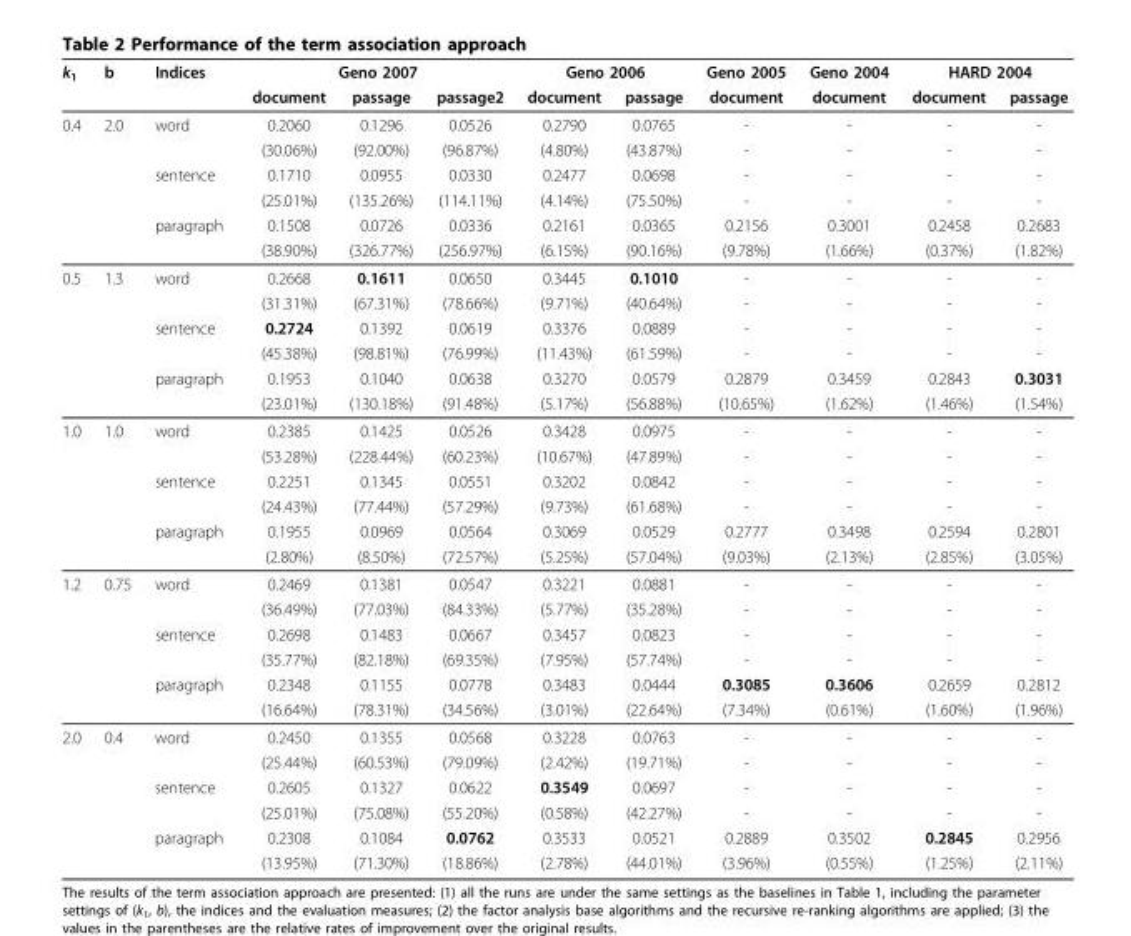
<table><thead><tr><td rowspan="2">k<sub>1</sub></td><td rowspan="2">b</td><td rowspan="2">Indices</td><td colspan="3">Geno 2007</td><td colspan="2">Geno 2006</td><td rowspan="2">Geno 2005 document</td><td rowspan="2">Geno 2004 document</td><td colspan="2">HARD 2004</td></tr><tr><td>document</td><td>passage</td><td>passage2</td><td>document</td><td>passage</td><td>document</td><td>passage</td></tr></thead><tbody><tr><td rowspan="6">0.4</td><td>2.0</td><td>word</td><td>0.2060</td><td>0.1296</td><td>0.0526</td><td>0.2790</td><td>0.0765</td><td>-</td><td>-</td><td>-</td><td>-</td></tr><tr><td></td><td></td><td>(30.06%)</td><td>(92.00%)</td><td>(96.87%)</td><td>(4.80%)</td><td>(43.87%)</td><td>-</td><td>-</td><td>-</td><td>-</td></tr><tr><td></td><td>sentence</td><td>0.1710</td><td>0.0955</td><td>0.0330</td><td>0.2477</td><td>0.0698</td><td>-</td><td>-</td><td>-</td><td>-</td></tr><tr><td></td><td></td><td>(25.01%)</td><td>(135.26%)</td><td>(114.11%)</td><td>(4.14%)</td><td>(75.50%)</td><td>-</td><td>-</td><td>-</td><td>-</td></tr><tr><td></td><td>paragraph</td><td>0.1508</td><td>0.0726</td><td>0.0336</td><td>0.2161</td><td>0.0365</td><td>0.2156</td><td>0.3001</td><td>0.2458</td><td>0.2683</td></tr><tr><td></td><td></td><td>(38.90%)</td><td>(326.77%)</td><td>(256.97%)</td><td>(6.15%)</td><td>(90.16%)</td><td>(9.78%)</td><td>(1.66%)</td><td>(0.37%)</td><td>(1.82%)</td></tr><tr><td rowspan="6">0.5</td><td>1.3</td><td>word</td><td>0.2668</td><td>0.1611</td><td>0.0650</td><td>0.3445</td><td>0.1010</td><td>-</td><td>-</td><td>-</td><td>-</td></tr><tr><td></td><td></td><td>(31.31%)</td><td>(67.31%)</td><td>(78.66%)</td><td>(9.71%)</td><td>(40.64%)</td><td>-</td><td>-</td><td>-</td><td>-</td></tr><tr><td></td><td>sentence</td><td>0.2724</td><td>0.1392</td><td>0.0619</td><td>0.3376</td><td>0.0889</td><td>-</td><td>-</td><td>-</td><td>-</td></tr><tr><td></td><td></td><td>(45.38%)</td><td>(98.81%)</td><td>(76.99%)</td><td>(11.43%)</td><td>(61.59%)</td><td>-</td><td>-</td><td>-</td><td>-</td></tr><tr><td></td><td>paragraph</td><td>0.1953</td><td>0.1040</td><td>0.0638</td><td>0.3270</td><td>0.0579</td><td>0.2879</td><td>0.3459</td><td>0.2843</td><td>0.3031</td></tr><tr><td></td><td></td><td>(23.01%)</td><td>(130.18%)</td><td>(91.48%)</td><td>(5.17%)</td><td>(56.88%)</td><td>(10.65%)</td><td>(1.62%)</td><td>(1.46%)</td><td>(1.54%)</td></tr><tr><td rowspan="6">1.0</td><td>1.0</td><td>word</td><td>0.2385</td><td>0.1425</td><td>0.0526</td><td>0.3428</td><td>0.0975</td><td>-</td><td>-</td><td>-</td><td>-</td></tr><tr><td></td><td></td><td>(53.28%)</td><td>(228.44%)</td><td>(60.23%)</td><td>(10.67%)</td><td>(47.89%)</td><td>-</td><td>-</td><td>-</td><td>-</td></tr><tr><td></td><td>sentence</td><td>0.2251</td><td>0.1345</td><td>0.0551</td><td>0.3202</td><td>0.0842</td><td>-</td><td>-</td><td>-</td><td>-</td></tr><tr><td></td><td></td><td>(24.43%)</td><td>(77.44%)</td><td>(57.29%)</td><td>(9.73%)</td><td>(61.68%)</td><td>-</td><td>-</td><td>-</td><td>-</td></tr><tr><td></td><td>paragraph</td><td>0.1955</td><td>0.0969</td><td>0.0564</td><td>0.3069</td><td>0.0529</td><td>0.2777</td><td>0.3498</td><td>0.2594</td><td>0.2801</td></tr><tr><td></td><td></td><td>(2.80%)</td><td>(8.50%)</td><td>(72.57%)</td><td>(5.25%)</td><td>(57.04%)</td><td>(9.03%)</td><td>(2.13%)</td><td>(2.85%)</td><td>(3.05%)</td></tr><tr><td rowspan="6">1.2</td><td>0.75</td><td>word</td><td>0.2469</td><td>0.1381</td><td>0.0547</td><td>0.3221</td><td>0.0881</td><td>-</td><td>-</td><td>-</td><td>-</td></tr><tr><td></td><td></td><td>(36.49%)</td><td>(77.03%)</td><td>(84.33%)</td><td>(5.77%)</td><td>(35.28%)</td><td>-</td><td>-</td><td>-</td><td>-</td></tr><tr><td></td><td>sentence</td><td>0.2698</td><td>0.1483</td><td>0.0667</td><td>0.3457</td><td>0.0823</td><td>-</td><td>-</td><td>-</td><td>-</td></tr><tr><td></td><td></td><td>(35.77%)</td><td>(82.18%)</td><td>(69.35%)</td><td>(7.95%)</td><td>(57.74%)</td><td>-</td><td>-</td><td>-</td><td>-</td></tr><tr><td></td><td>paragraph</td><td>0.2348</td><td>0.1155</td><td>0.0778</td><td>0.3483</td><td>0.0444</td><td>0.3085</td><td>0.3606</td><td>0.2659</td><td>0.2812</td></tr><tr><td></td><td></td><td>(16.64%)</td><td>(78.31%)</td><td>(34.56%)</td><td>(3.01%)</td><td>(22.64%)</td><td>(7.34%)</td><td>(0.61%)</td><td>(1.60%)</td><td>(1.96%)</td></tr><tr><td rowspan="6">2.0</td><td>0.4</td><td>word</td><td>0.2450</td><td>0.1355</td><td>0.0568</td><td>0.3228</td><td>0.0763</td><td>-</td><td>-</td><td>-</td><td>-</td></tr><tr><td></td><td></td><td>(25.44%)</td><td>(60.53%)</td><td>(79.09%)</td><td>(2.42%)</td><td>(19.71%)</td><td>-</td><td>-</td><td>-</td><td>-</td></tr><tr><td></td><td>sentence</td><td>0.2605</td><td>0.1327</td><td>0.0622</td><td>0.3549</td><td>0.0697</td><td>-</td><td>-</td><td>-</td><td>-</td></tr><tr><td></td><td></td><td>(25.01%)</td><td>(75.08%)</td><td>(55.20%)</td><td>(0.58%)</td><td>(42.27%)</td><td>-</td><td>-</td><td>-</td><td>-</td></tr><tr><td></td><td>paragraph</td><td>0.2308</td><td>0.1084</td><td>0.0762</td><td>0.3533</td><td>0.0521</td><td>0.2889</td><td>0.3502</td><td>0.2845</td><td>0.2956</td></tr><tr><td></td><td></td><td>(13.95%)</td><td>(71.30%)</td><td>(18.86%)</td><td>(2.78%)</td><td>(44.01%)</td><td>(3.96%)</td><td>(0.55%)</td><td>(1.25%)</td><td>(2.11%)</td></tr></tbody></table>